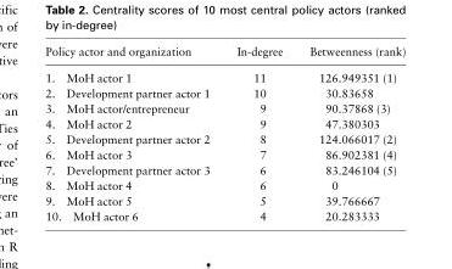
<table><thead><tr><td>Policy actor and organization</td><td>In-degree</td><td>Betweenness (rank)</td></tr></thead><tbody><tr><td>1. MoH actor 1</td><td>11</td><td>126.949351 (1)</td></tr><tr><td>2. Development partner actor 1</td><td>10</td><td>30.83658</td></tr><tr><td>3. MoH actor/entrepreneur</td><td>9</td><td>90.37868 (3)</td></tr><tr><td>4. MoH actor 2</td><td>9</td><td>47.380303</td></tr><tr><td>5. Development partner actor 2</td><td>8</td><td>124.066017 (2)</td></tr><tr><td>6. MoH actor 3</td><td>7</td><td>86.902381 (4)</td></tr><tr><td>7. Development partner actor 3</td><td>6</td><td>83.246104 (5)</td></tr><tr><td>8. MoH actor 4</td><td>6</td><td>0</td></tr><tr><td>9. MoH actor 5</td><td>5</td><td>39.766667</td></tr><tr><td>10. MoH actor 6</td><td>4</td><td>20.283333</td></tr></tbody></table>